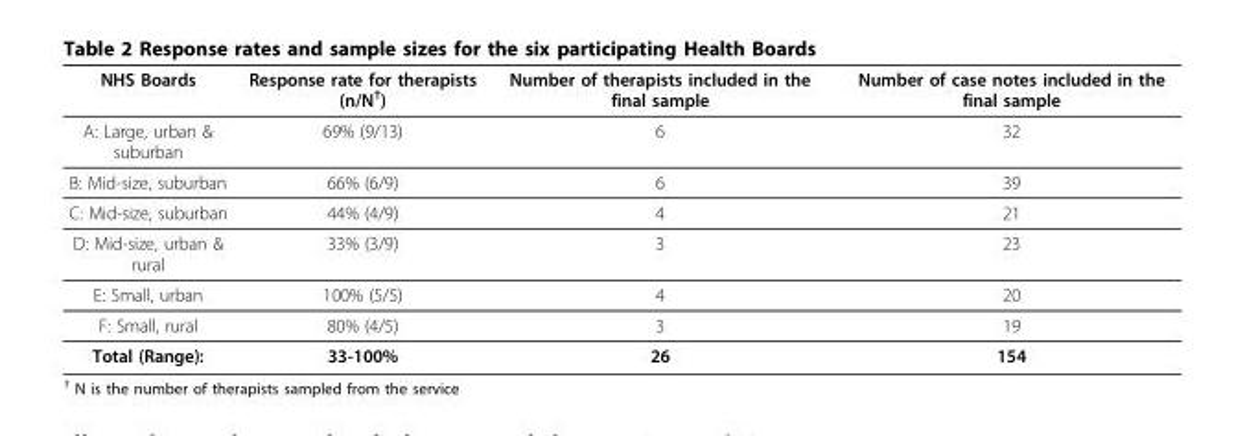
<table><thead><tr><td>NHS Boards</td><td>Response rate for therapists (n/N<sup>†</sup>)</td><td>Number of therapists included in the final sample</td><td>Number of case notes included in the final sample</td></tr></thead><tbody><tr><td>A: Large, urban &amp; suburban</td><td>69% (9/13)</td><td>6</td><td>32</td></tr><tr><td>B: Mid-size, suburban</td><td>66% (6/9)</td><td>6</td><td>39</td></tr><tr><td>C: Mid-size, suburban</td><td>44% (4/9)</td><td>4</td><td>21</td></tr><tr><td>D: Mid-size, urban &amp; rural</td><td>33% (3/9)</td><td>3</td><td>23</td></tr><tr><td>E: Small, urban</td><td>100% (5/5)</td><td>4</td><td>20</td></tr><tr><td>F: Small, rural</td><td>80% (4/5)</td><td>3</td><td>19</td></tr><tr><td>Total (Range):</td><td>33-100%</td><td>26</td><td>154</td></tr></tbody></table>